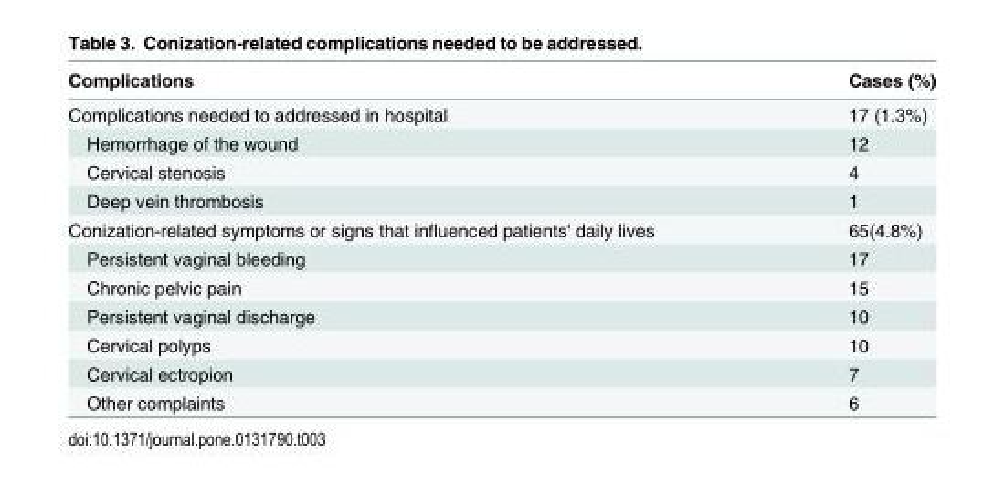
<table><thead><tr><td>Complications</td><td>Cases (%)</td></tr></thead><tbody><tr><td>Complications needed to addressed in hospital</td><td>17 (1.3%)</td></tr><tr><td>Hemorrhage of the wound</td><td>12</td></tr><tr><td>Cervical stenosis</td><td>4</td></tr><tr><td>Deep vein thrombosis</td><td>1</td></tr><tr><td>Conization-related symptoms or signs that influenced patients&#x27; daily lives</td><td>65(4.8%)</td></tr><tr><td>Persistent vaginal bleeding</td><td>17</td></tr><tr><td>Chronic pelvic pain</td><td>15</td></tr><tr><td>Persistent vaginal discharge</td><td>10</td></tr><tr><td>Cervical polyps</td><td>10</td></tr><tr><td>Cervical ectropion</td><td>7</td></tr><tr><td>Other complaints</td><td>6</td></tr></tbody></table>